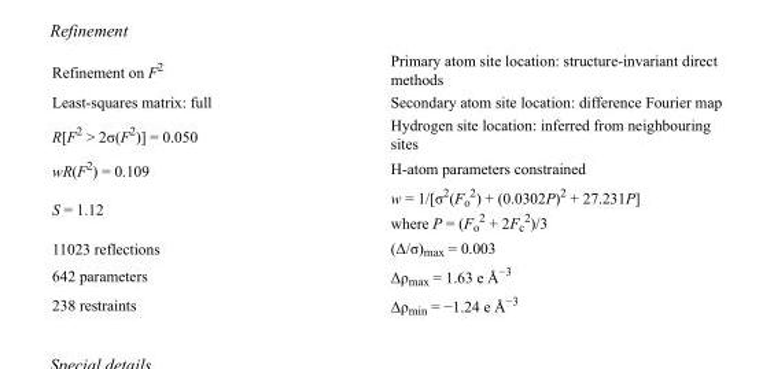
<table><tbody><tr><td>Refinement on F<sup>2</sup></td><td>Primary atom site location: structure-invariant direct methods</td></tr><tr><td>Least-squares matrix: full</td><td>Secondary atom site location: difference Fourier map</td></tr><tr><td>R[F<sup>2</sup> &gt; 2σ(F<sup>2</sup>)] = 0.050</td><td>Hydrogen site location: inferred from neighbouring sites</td></tr><tr><td>wR(F<sup>2</sup>) = 0.109</td><td>H-atom parameters constrained</td></tr><tr><td>S = 1.12</td><td>w = 1/[σ<sup>2</sup>(F<sub>o</sub> <sup>2</sup>) + (0.0302P)<sup>2</sup> + 27.231P] where P = (F<sub>o</sub> <sup>2</sup> + 2F<sub>c</sub> <sup>2</sup>)/3</td></tr><tr><td>11023 reflections</td><td>(Δ/σ)<sub>max</sub> = 0.003</td></tr><tr><td>642 parameters</td><td>Δρ<sub>max</sub> = 1.63 e Å<sup>−3</sup></td></tr><tr><td>238 restraints</td><td>Δρ<sub>min</sub> = −1.24 e Å<sup>−3</sup></td></tr></tbody></table>